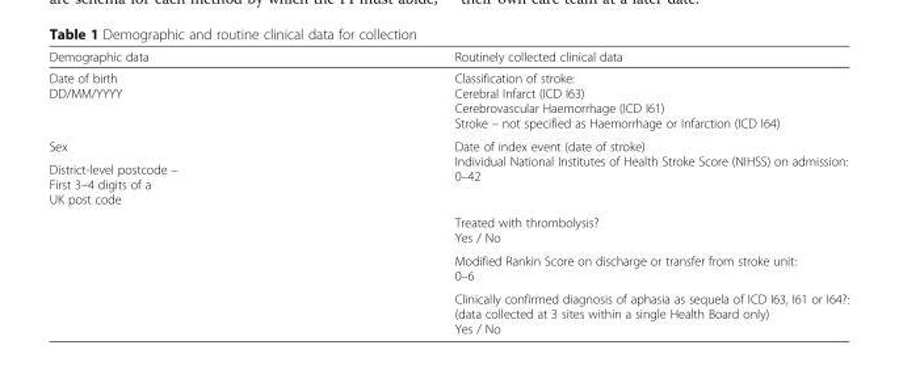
<table><thead><tr><td>Demographic data</td><td>Routinely collected clinical data</td></tr></thead><tbody><tr><td>Date of birth DD/MM/YYYY</td><td>Classification of stroke: Cerebral Infarct (ICD I63) Cerebrovascular Haemorrhage (ICD I61) Stroke – not specified as Haemorrhage or Infarction (ICD I64)</td></tr><tr><td>Sex</td><td rowspan="2">Date of index event (date of stroke) Individual National Institutes of Health Stroke Score (NIHSS) on admission: 0–42</td></tr><tr><td rowspan="4">District-level postcode – First 3–4 digits of a UK post code</td></tr><tr><td>Treated with thrombolysis? Yes / No</td></tr><tr><td>Modified Rankin Score on discharge or transfer from stroke unit: 0–6</td></tr><tr><td>Clinically confirmed diagnosis of aphasia as sequela of ICD I63, I61 or I64?: (data collected at 3 sites within a single Health Board only) Yes / No</td></tr></tbody></table>